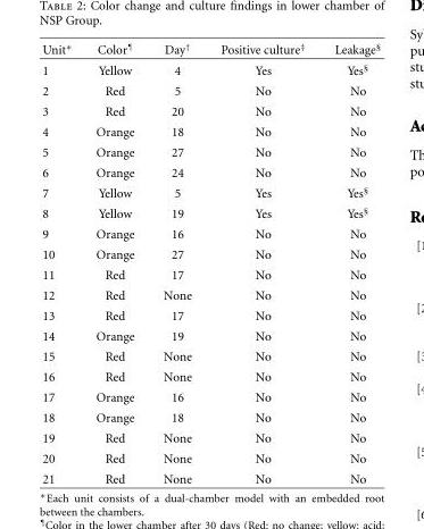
<table><thead><tr><td>Unit∗</td><td>Color<sup>¶</sup></td><td>Day<sup>†</sup></td><td>Positive culture<sup>‡</sup></td><td>Leakage<sup>§</sup></td></tr></thead><tbody><tr><td>1</td><td>Yellow</td><td>4</td><td>Yes</td><td>Yes<sup>§</sup></td></tr><tr><td>2</td><td>Red</td><td>5</td><td>No</td><td>No</td></tr><tr><td>3</td><td>Red</td><td>20</td><td>No</td><td>No</td></tr><tr><td>4</td><td>Orange</td><td>18</td><td>No</td><td>No</td></tr><tr><td>5</td><td>Orange</td><td>27</td><td>No</td><td>No</td></tr><tr><td>6</td><td>Orange</td><td>24</td><td>No</td><td>No</td></tr><tr><td>7</td><td>Yellow</td><td>5</td><td>Yes</td><td>Yes<sup>§</sup></td></tr><tr><td>8</td><td>Yellow</td><td>19</td><td>Yes</td><td>Yes<sup>§</sup></td></tr><tr><td>9</td><td>Orange</td><td>16</td><td>No</td><td>No</td></tr><tr><td>10</td><td>Orange</td><td>27</td><td>No</td><td>No</td></tr><tr><td>11</td><td>Red</td><td>17</td><td>No</td><td>No</td></tr><tr><td>12</td><td>Red</td><td>None</td><td>No</td><td>No</td></tr><tr><td>13</td><td>Red</td><td>17</td><td>No</td><td>No</td></tr><tr><td>14</td><td>Orange</td><td>19</td><td>No</td><td>No</td></tr><tr><td>15</td><td>Red</td><td>None</td><td>No</td><td>No</td></tr><tr><td>16</td><td>Red</td><td>None</td><td>No</td><td>No</td></tr><tr><td>17</td><td>Orange</td><td>16</td><td>No</td><td>No</td></tr><tr><td>18</td><td>Orange</td><td>18</td><td>No</td><td>No</td></tr><tr><td>19</td><td>Red</td><td>None</td><td>No</td><td>No</td></tr><tr><td>20</td><td>Red</td><td>None</td><td>No</td><td>No</td></tr><tr><td>21</td><td>Red</td><td>None</td><td>No</td><td>No</td></tr></tbody></table>